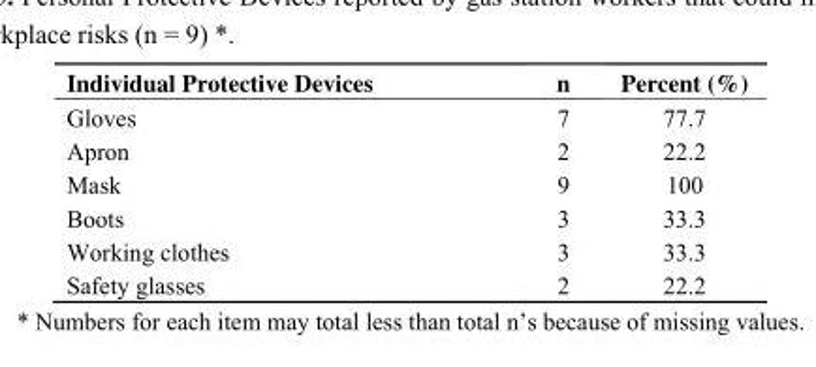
<table><thead><tr><td>Individual Protective Devices</td><td>n</td><td>Percent (%)</td></tr></thead><tbody><tr><td>Gloves</td><td>7</td><td>77.7</td></tr><tr><td>Apron</td><td>2</td><td>22.2</td></tr><tr><td>Mask</td><td>9</td><td>100</td></tr><tr><td>Boots</td><td>3</td><td>33.3</td></tr><tr><td>Working clothes</td><td>3</td><td>33.3</td></tr><tr><td>Safety glasses</td><td>2</td><td>22.2</td></tr></tbody></table>